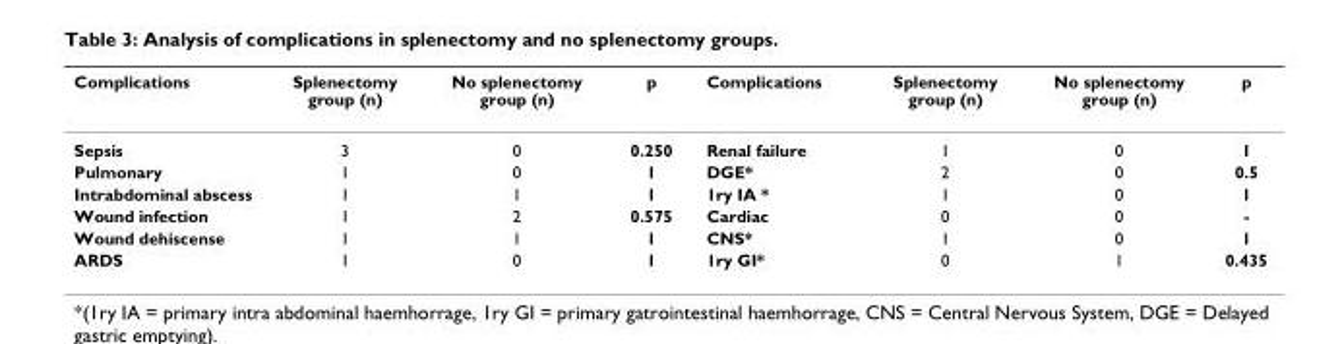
<table><thead><tr><td>Complications</td><td>Splenectomy group (n)</td><td>No splenectomy group (n)</td><td>p</td><td>Complications</td><td>Splenectomy group (n)</td><td>No splenectomy group (n)</td><td>p</td></tr></thead><tbody><tr><td>Sepsis</td><td>3</td><td>0</td><td>0.250</td><td>Renal failure</td><td>1</td><td>0</td><td>1</td></tr><tr><td>Pulmonary</td><td>1</td><td>0</td><td>1</td><td>DGE*</td><td>2</td><td>0</td><td>0.5</td></tr><tr><td>Intrabdominal abscess</td><td>1</td><td>1</td><td>1</td><td>1ry IA *</td><td>1</td><td>0</td><td>1</td></tr><tr><td>Wound infection</td><td>1</td><td>2</td><td>0.575</td><td>Cardiac</td><td>0</td><td>0</td><td>-</td></tr><tr><td>Wound dehiscense</td><td>1</td><td>1</td><td>1</td><td>CNS*</td><td>1</td><td>0</td><td>1</td></tr><tr><td>ARDS</td><td>1</td><td>0</td><td>1</td><td>1ry GI*</td><td>0</td><td>1</td><td>0.435</td></tr></tbody></table>